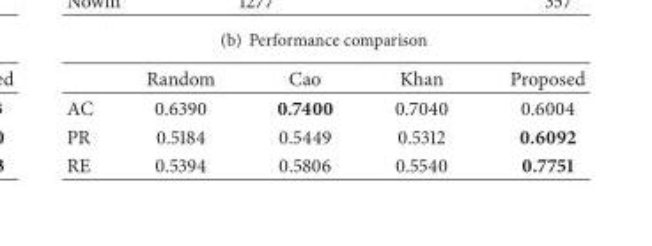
<table><thead><tr><td></td><td>Random</td><td>Cao</td><td>Khan</td><td>Proposed</td></tr></thead><tbody><tr><td>AC</td><td>0.6390</td><td>0.7400</td><td>0.7040</td><td>0.6004</td></tr><tr><td>PR</td><td>0.5184</td><td>0.5449</td><td>0.5312</td><td>0.6092</td></tr><tr><td>RE</td><td>0.5394</td><td>0.5806</td><td>0.5540</td><td>0.7751</td></tr></tbody></table>